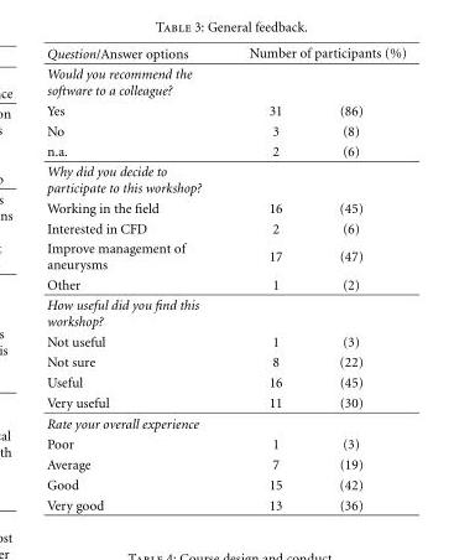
<table><thead><tr><td rowspan="3">Question/Answer options Would you recommend the software to a colleague? Yes</td><td rowspan="2" colspan="2">Number of participants (%)</td></tr><tr></tr><tr><td>31</td><td>(86)</td></tr></thead><tbody><tr><td>No</td><td>3</td><td>(8)</td></tr><tr><td>n.a.</td><td>2</td><td>(6)</td></tr><tr><td colspan="3">Why did you decide to participate to this workshop?</td></tr><tr><td>Working in the field</td><td>16</td><td>(45)</td></tr><tr><td>Interested in CFD</td><td>2</td><td>(6)</td></tr><tr><td>Improve management of aneurysms</td><td>17</td><td>(47)</td></tr><tr><td>Other</td><td>1</td><td>(2)</td></tr><tr><td colspan="3">How useful did you find this workshop?</td></tr><tr><td>Not useful</td><td>1</td><td>(3)</td></tr><tr><td>Not sure</td><td>8</td><td>(22)</td></tr><tr><td>Useful</td><td>16</td><td>(45)</td></tr><tr><td>Very useful</td><td>11</td><td>(30)</td></tr><tr><td colspan="3">Rate your overall experience</td></tr><tr><td>Poor</td><td>1</td><td>(3)</td></tr><tr><td>Average</td><td>7</td><td>(19)</td></tr><tr><td>Good</td><td>15</td><td>(42)</td></tr><tr><td>Very good</td><td>13</td><td>(36)</td></tr></tbody></table>